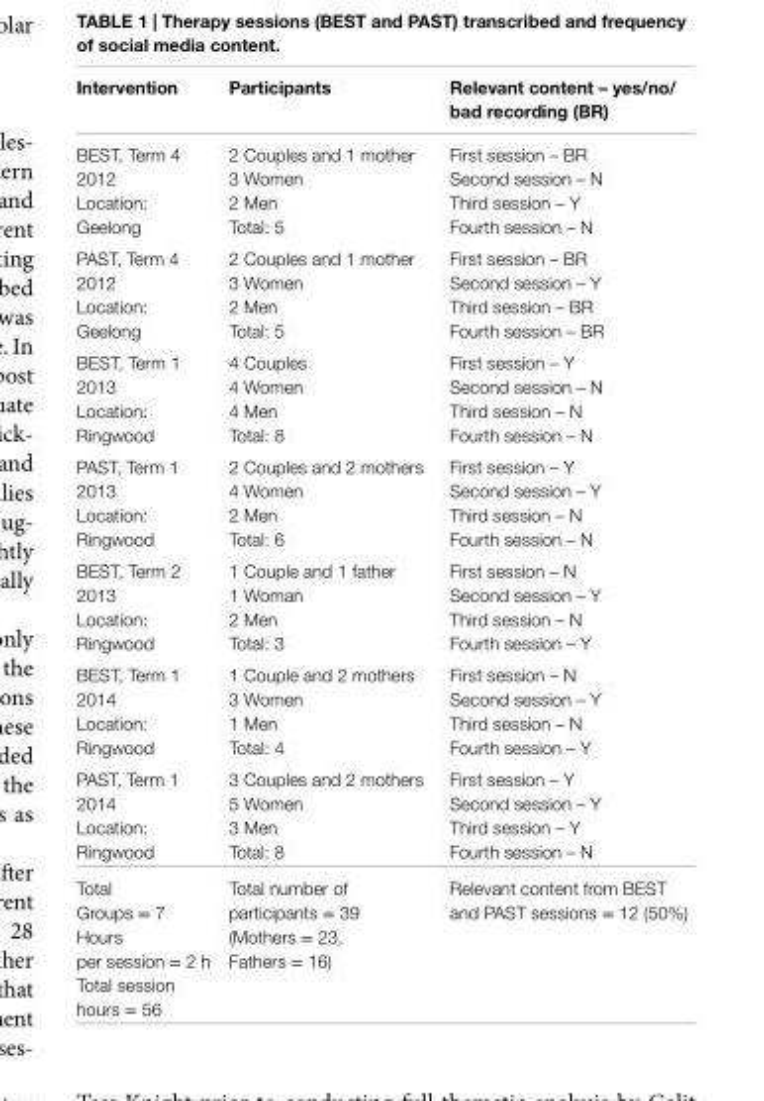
<table><thead><tr><td>Intervention</td><td>Participants</td><td>Relevant content – yes/no/ bad recording (BR)</td></tr></thead><tbody><tr><td rowspan="2">BEST, Term 4 2012</td><td>2 Couples and 1 mother</td><td>First session – BR</td></tr><tr><td>3 Women</td><td>Second session – N</td></tr><tr><td rowspan="2">Location: Geelong</td><td>2 Men</td><td>Third session – Y</td></tr><tr><td>Total: 5</td><td>Fourth session – N</td></tr><tr><td rowspan="2">PAST, Term 4 2012</td><td>2 Couples and 1 mother</td><td>First session – BR</td></tr><tr><td>3 Women</td><td>Second session – Y</td></tr><tr><td rowspan="2">Location: Geelong</td><td>2 Men</td><td>Third session – BR</td></tr><tr><td>Total: 5</td><td>Fourth session – BR</td></tr><tr><td rowspan="2">BEST, Term 1 2013</td><td>4 Couples</td><td>First session – Y</td></tr><tr><td>4 Women</td><td>Second session – N</td></tr><tr><td rowspan="2">Location: Ringwood</td><td>4 Men</td><td>Third session – N</td></tr><tr><td>Total: 8</td><td>Fourth session – N</td></tr><tr><td rowspan="2">PAST, Term 1 2013</td><td>2 Couples and 2 mothers</td><td>First session – Y</td></tr><tr><td>4 Women</td><td>Second session – Y</td></tr><tr><td rowspan="2">Location: Ringwood</td><td>2 Men</td><td>Third session – N</td></tr><tr><td>Total: 6</td><td>Fourth session – N</td></tr><tr><td rowspan="2">BEST, Term 2 2013</td><td>1 Couple and 1 father</td><td>First session – N</td></tr><tr><td>1 Woman</td><td>Second session – Y</td></tr><tr><td rowspan="2">Location: Ringwood</td><td>2 Men</td><td>Third session – N</td></tr><tr><td>Total: 3</td><td>Fourth session – Y</td></tr><tr><td rowspan="2">BEST, Term 1 2014</td><td>1 Couple and 2 mothers</td><td>First session – N</td></tr><tr><td>3 Women</td><td>Second session – Y</td></tr><tr><td rowspan="2">Location: Ringwood</td><td>1 Men</td><td>Third session – N</td></tr><tr><td>Total: 4</td><td>Fourth session – Y</td></tr><tr><td rowspan="2">PAST, Term 1 2014</td><td>3 Couples and 2 mothers</td><td>First session – Y</td></tr><tr><td>5 Women</td><td>Second session – Y</td></tr><tr><td rowspan="2">Location: Ringwood</td><td>3 Men</td><td>Third session – Y</td></tr><tr><td>Total: 8</td><td>Fourth session – N</td></tr><tr><td>Total Groups = 7 Hours per session = 2 h Total session hours = 56</td><td>Total number of participants = 39 (Mothers = 23, Fathers = 16)</td><td>Relevant content from BEST and PAST sessions = 12 (50%)</td></tr></tbody></table>